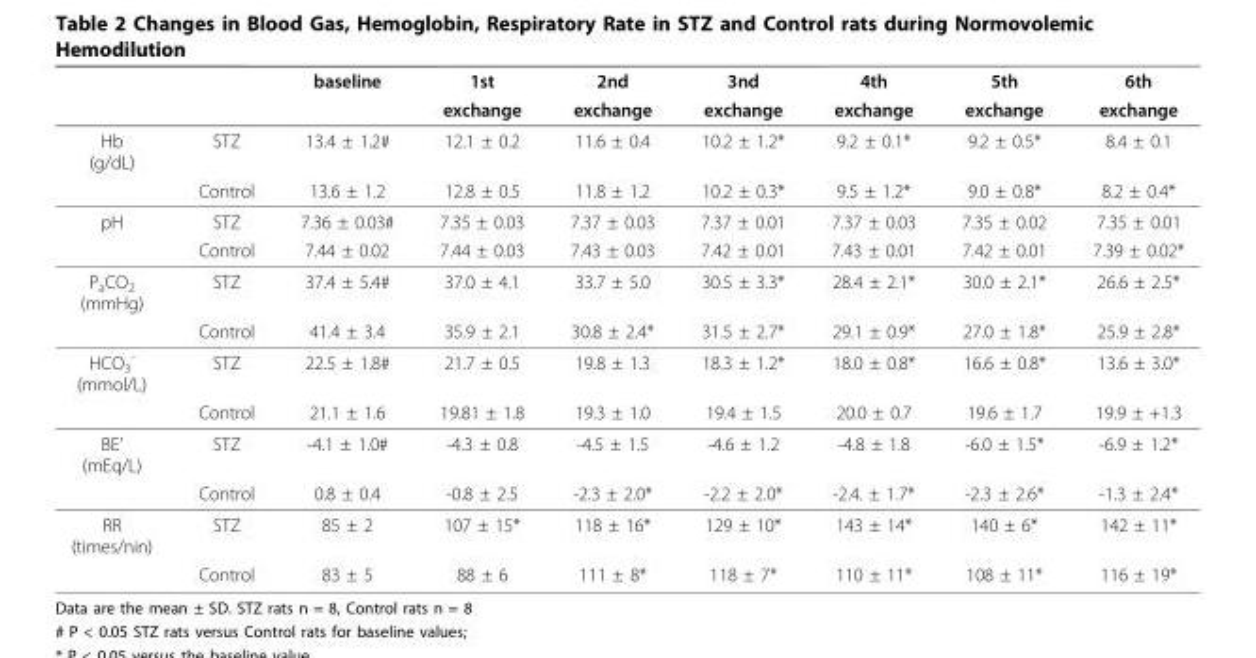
<table><thead><tr><td rowspan="2"></td><td rowspan="2"></td><td rowspan="2">baseline</td><td rowspan="2">1st exchange</td><td rowspan="2">2nd exchange</td><td rowspan="2">3nd exchange</td><td rowspan="2">4th exchange</td><td rowspan="2">5th exchange</td><td rowspan="2">6th exchange</td></tr><tr></tr></thead><tbody><tr><td rowspan="2">Hb (g/dL)</td><td>STZ</td><td>13.4 ± 1.2#</td><td>12.1 ± 0.2</td><td>11.6 ± 0.4</td><td>10.2 ± 1.2*</td><td>9.2 ± 0.1*</td><td>9.2 ± 0.5*</td><td>8.4 ± 0.1</td></tr><tr><td>Control</td><td>13.6 ± 1.2</td><td>12.8 ± 0.5</td><td>11.8 ± 1.2</td><td>10.2 ± 0.3*</td><td>9.5 ± 1.2*</td><td>9.0 ± 0.8*</td><td>8.2 ± 0.4*</td></tr><tr><td rowspan="2">pH</td><td>STZ</td><td>7.36 ± 0.03#</td><td>7.35 ± 0.03</td><td>7.37 ± 0.03</td><td>7.37 ± 0.01</td><td>7.37 ± 0.03</td><td>7.35 ± 0.02</td><td>7.35 ± 0.01</td></tr><tr><td>Control</td><td>7.44 ± 0.02</td><td>7.44 ± 0.03</td><td>7.43 ± 0.03</td><td>7.42 ± 0.01</td><td>7.43 ± 0.01</td><td>7.42 ± 0.01</td><td>7.39 ± 0.02*</td></tr><tr><td rowspan="2">P<sub>a</sub>CO<sub>2</sub> (mmHg)</td><td>STZ</td><td>37.4 ± 5.4#</td><td>37.0 ± 4.1</td><td>33.7 ± 5.0</td><td>30.5 ± 3.3*</td><td>28.4 ± 2.1*</td><td>30.0 ± 2.1*</td><td>26.6 ± 2.5*</td></tr><tr><td>Control</td><td>41.4 ± 3.4</td><td>35.9 ± 2.1</td><td>30.8 ± 2.4*</td><td>31.5 ± 2.7*</td><td>29.1 ± 0.9*</td><td>27.0 ± 1.8*</td><td>25.9 ± 2.8*</td></tr><tr><td rowspan="2">HCO<sub>3</sub> <sup>-</sup> (mmol/L)</td><td>STZ</td><td>22.5 ± 1.8#</td><td>21.7 ± 0.5</td><td>19.8 ± 1.3</td><td>18.3 ± 1.2*</td><td>18.0 ± 0.8*</td><td>16.6 ± 0.8*</td><td>13.6 ± 3.0*</td></tr><tr><td>Control</td><td>21.1 ± 1.6</td><td>19.81 ± 1.8</td><td>19.3 ± 1.0</td><td>19.4 ± 1.5</td><td>20.0 ± 0.7</td><td>19.6 ± 1.7</td><td>19.9 ± +1.3</td></tr><tr><td rowspan="2">BE’ (mEq/L)</td><td>STZ</td><td>-4.1 ± 1.0#</td><td>-4.3 ± 0.8</td><td>-4.5 ± 1.5</td><td>-4.6 ± 1.2</td><td>-4.8 ± 1.8</td><td>-6.0 ± 1.5*</td><td>-6.9 ± 1.2*</td></tr><tr><td>Control</td><td>0.8 ± 0.4</td><td>-0.8 ± 2.5</td><td>-2.3 ± 2.0*</td><td>-2.2 ± 2.0*</td><td>-2.4. ± 1.7*</td><td>-2.3 ± 2.6*</td><td>-1.3 ± 2.4*</td></tr><tr><td rowspan="2">RR (times/nin)</td><td>STZ</td><td>85 ± 2</td><td>107 ± 15*</td><td>118 ± 16*</td><td>129 ± 10*</td><td>143 ± 14*</td><td>140 ± 6*</td><td>142 ± 11*</td></tr><tr><td>Control</td><td>83 ± 5</td><td>88 ± 6</td><td>111 ± 8*</td><td>118 ± 7*</td><td>110 ± 11*</td><td>108 ± 11*</td><td>116 ± 19*</td></tr></tbody></table>